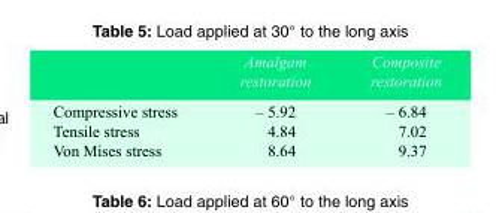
<table><thead><tr><td></td><td>Amalgam restoration</td><td>Composite restoration</td></tr></thead><tbody><tr><td>Compressive stress</td><td>– 5.92</td><td>– 6.84</td></tr><tr><td>Tensile stress</td><td>4.84</td><td>7.02</td></tr><tr><td>Von Mises stress</td><td>8.64</td><td>9.37</td></tr></tbody></table>